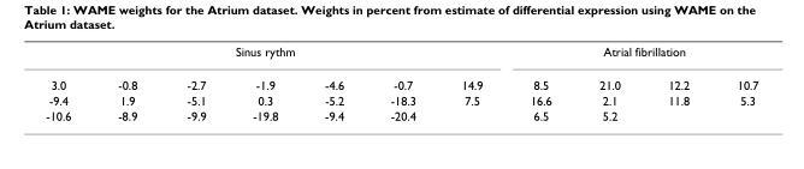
<table><tbody><tr><td colspan="7">Sinus rythm</td><td colspan="4">Atrial fibrillation</td></tr><tr><td>3.0</td><td>-0.8</td><td>-2.7</td><td>-1.9</td><td>-4.6</td><td>-0.7</td><td>14.9</td><td>8.5</td><td>21.0</td><td>12.2</td><td>10.7</td></tr><tr><td>-9.4</td><td>1.9</td><td>-5.1</td><td>0.3</td><td>-5.2</td><td>-18.3</td><td>7.5</td><td>16.6</td><td>2.1</td><td>11.8</td><td>5.3</td></tr><tr><td>-10.6</td><td>-8.9</td><td>-9.9</td><td>-19.8</td><td>-9.4</td><td>-20.4</td><td></td><td>6.5</td><td>5.2</td><td></td><td></td></tr></tbody></table>